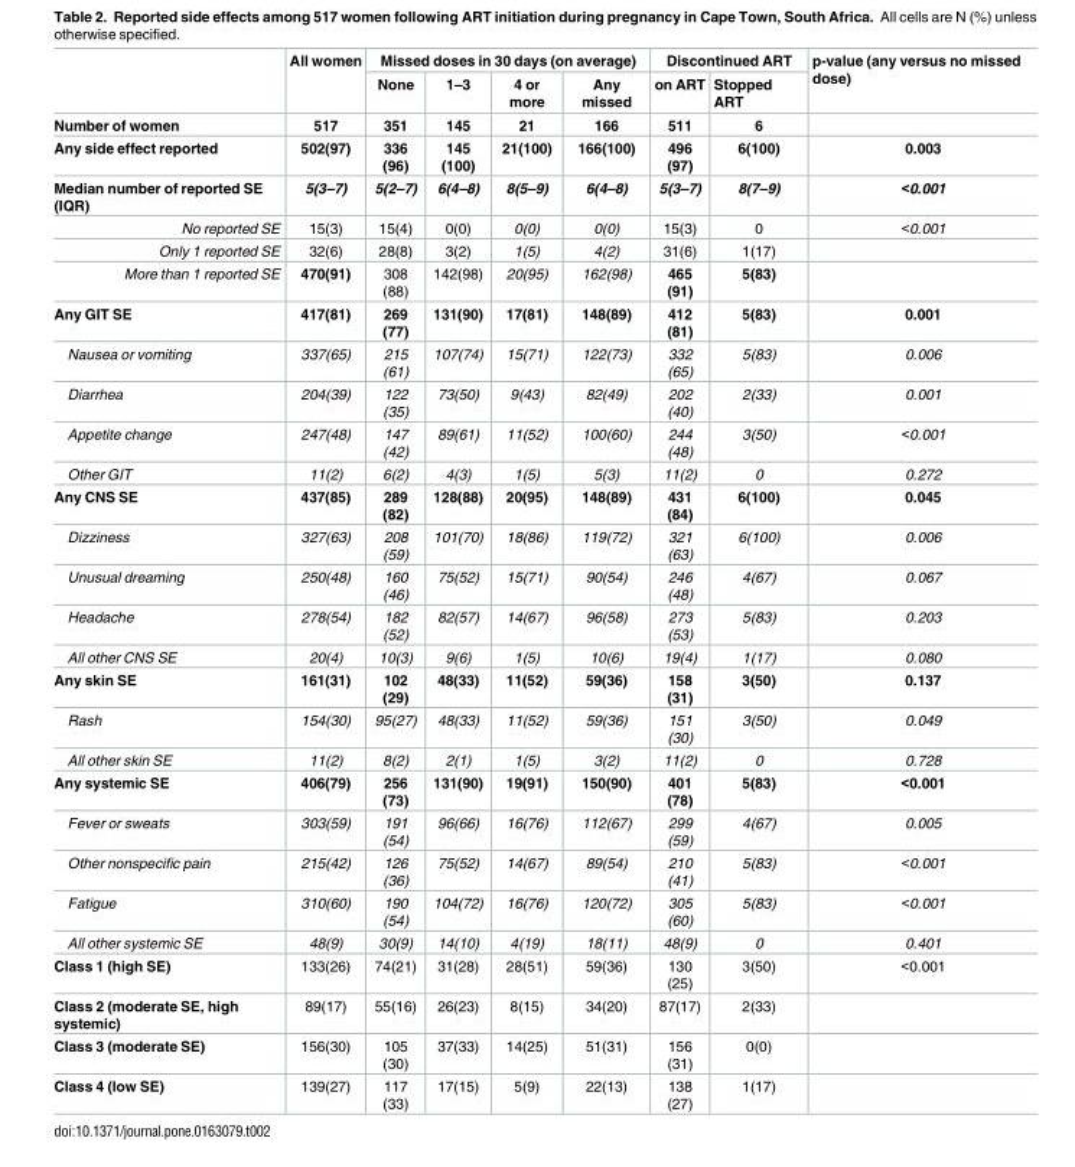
<table><thead><tr><td rowspan="2"></td><td rowspan="2">All women</td><td colspan="4">Missed doses in 30 days (on average)</td><td colspan="2">Discontinued ART</td><td rowspan="2">p-value (any versus no missed dose)</td></tr><tr><td>None</td><td>1–3</td><td>4 or more</td><td>Any missed</td><td>on ART</td><td>Stopped ART</td></tr></thead><tbody><tr><td>Number of women</td><td>517</td><td>351</td><td>145</td><td>21</td><td>166</td><td>511</td><td>6</td><td></td></tr><tr><td>Any side effect reported</td><td>502(97)</td><td>336 (96)</td><td>145 (100)</td><td>21(100)</td><td>166(100)</td><td>496 (97)</td><td>6(100)</td><td>0.003</td></tr><tr><td>Median number of reported SE (IQR)</td><td>5(3–7)</td><td>5(2–7)</td><td>6(4–8)</td><td>8(5–9)</td><td>6(4–8)</td><td>5(3–7)</td><td>8(7–9)</td><td>&lt;0.001</td></tr><tr><td>No reported SE</td><td>15(3)</td><td>15(4)</td><td>0(0)</td><td>0(0)</td><td>0(0)</td><td>15(3)</td><td>0</td><td>&lt;0.001</td></tr><tr><td>Only 1 reported SE</td><td>32(6)</td><td>28(8)</td><td>3(2)</td><td>1(5)</td><td>4(2)</td><td>31(6)</td><td>1(17)</td><td></td></tr><tr><td>More than 1 reported SE</td><td>470(91)</td><td>308 (88)</td><td>142(98)</td><td>20(95)</td><td>162(98)</td><td>465 (91)</td><td>5(83)</td><td></td></tr><tr><td>Any GIT SE</td><td>417(81)</td><td>269 (77)</td><td>131(90)</td><td>17(81)</td><td>148(89)</td><td>412 (81)</td><td>5(83)</td><td>0.001</td></tr><tr><td>Nausea or vomiting</td><td>337(65)</td><td>215 (61)</td><td>107(74)</td><td>15(71)</td><td>122(73)</td><td>332 (65)</td><td>5(83)</td><td>0.006</td></tr><tr><td>Diarrhea</td><td>204(39)</td><td>122 (35)</td><td>73(50)</td><td>9(43)</td><td>82(49)</td><td>202 (40)</td><td>2(33)</td><td>0.001</td></tr><tr><td>Appetite change</td><td>247(48)</td><td>147 (42)</td><td>89(61)</td><td>11(52)</td><td>100(60)</td><td>244 (48)</td><td>3(50)</td><td>&lt;0.001</td></tr><tr><td>Other GIT</td><td>11(2)</td><td>6(2)</td><td>4(3)</td><td>1(5)</td><td>5(3)</td><td>11(2)</td><td>0</td><td>0.272</td></tr><tr><td>Any CNS SE</td><td>437(85)</td><td>289 (82)</td><td>128(88)</td><td>20(95)</td><td>148(89)</td><td>431 (84)</td><td>6(100)</td><td>0.045</td></tr><tr><td>Dizziness</td><td>327(63)</td><td>208 (59)</td><td>101(70)</td><td>18(86)</td><td>119(72)</td><td>321 (63)</td><td>6(100)</td><td>0.006</td></tr><tr><td>Unusual dreaming</td><td>250(48)</td><td>160 (46)</td><td>75(52)</td><td>15(71)</td><td>90(54)</td><td>246 (48)</td><td>4(67)</td><td>0.067</td></tr><tr><td>Headache</td><td>278(54)</td><td>182 (52)</td><td>82(57)</td><td>14(67)</td><td>96(58)</td><td>273 (53)</td><td>5(83)</td><td>0.203</td></tr><tr><td>All other CNS SE</td><td>20(4)</td><td>10(3)</td><td>9(6)</td><td>1(5)</td><td>10(6)</td><td>19(4)</td><td>1(17)</td><td>0.080</td></tr><tr><td>Any skin SE</td><td>161(31)</td><td>102 (29)</td><td>48(33)</td><td>11(52)</td><td>59(36)</td><td>158 (31)</td><td>3(50)</td><td>0.137</td></tr><tr><td>Rash</td><td>154(30)</td><td>95(27)</td><td>48(33)</td><td>11(52)</td><td>59(36)</td><td>151 (30)</td><td>3(50)</td><td>0.049</td></tr><tr><td>All other skin SE</td><td>11(2)</td><td>8(2)</td><td>2(1)</td><td>1(5)</td><td>3(2)</td><td>11(2)</td><td>0</td><td>0.728</td></tr><tr><td>Any systemic SE</td><td>406(79)</td><td>256 (73)</td><td>131(90)</td><td>19(91)</td><td>150(90)</td><td>401 (78)</td><td>5(83)</td><td>&lt;0.001</td></tr><tr><td>Fever or sweats</td><td>303(59)</td><td>191 (54)</td><td>96(66)</td><td>16(76)</td><td>112(67)</td><td>299 (59)</td><td>4(67)</td><td>0.005</td></tr><tr><td>Other nonspecific pain</td><td>215(42)</td><td>126 (36)</td><td>75(52)</td><td>14(67)</td><td>89(54)</td><td>210 (41)</td><td>5(83)</td><td>&lt;0.001</td></tr><tr><td>Fatigue</td><td>310(60)</td><td>190 (54)</td><td>104(72)</td><td>16(76)</td><td>120(72)</td><td>305 (60)</td><td>5(83)</td><td>&lt;0.001</td></tr><tr><td>All other systemic SE</td><td>48(9)</td><td>30(9)</td><td>14(10)</td><td>4(19)</td><td>18(11)</td><td>48(9)</td><td>0</td><td>0.401</td></tr><tr><td>Class 1 (high SE)</td><td>133(26)</td><td>74(21)</td><td>31(28)</td><td>28(51)</td><td>59(36)</td><td>130 (25)</td><td>3(50)</td><td>&lt;0.001</td></tr><tr><td>Class 2 (moderate SE, high systemic)</td><td>89(17)</td><td>55(16)</td><td>26(23)</td><td>8(15)</td><td>34(20)</td><td>87(17)</td><td>2(33)</td><td></td></tr><tr><td>Class 3 (moderate SE)</td><td>156(30)</td><td>105 (30)</td><td>37(33)</td><td>14(25)</td><td>51(31)</td><td>156 (31)</td><td>0(0)</td><td></td></tr><tr><td>Class 4 (low SE)</td><td>139(27)</td><td>117 (33)</td><td>17(15)</td><td>5(9)</td><td>22(13)</td><td>138 (27)</td><td>1(17)</td><td></td></tr></tbody></table>